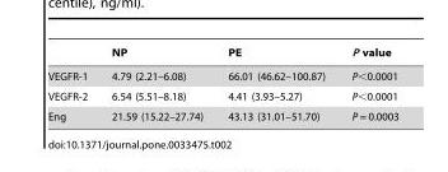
<table><thead><tr><td></td><td>NP</td><td>PE</td><td>P value</td></tr></thead><tbody><tr><td>VEGFR-1</td><td>4.79 (2.21–6.08)</td><td>66.01 (46.62–100.87)</td><td>P&lt;0.0001</td></tr><tr><td>VEGFR-2</td><td>6.54 (5.51–8.18)</td><td>4.41 (3.93–5.27)</td><td>P&lt;0.0001</td></tr><tr><td>Eng</td><td>21.59 (15.22–27.74)</td><td>43.13 (31.01–51.70)</td><td>P = 0.0003</td></tr></tbody></table>